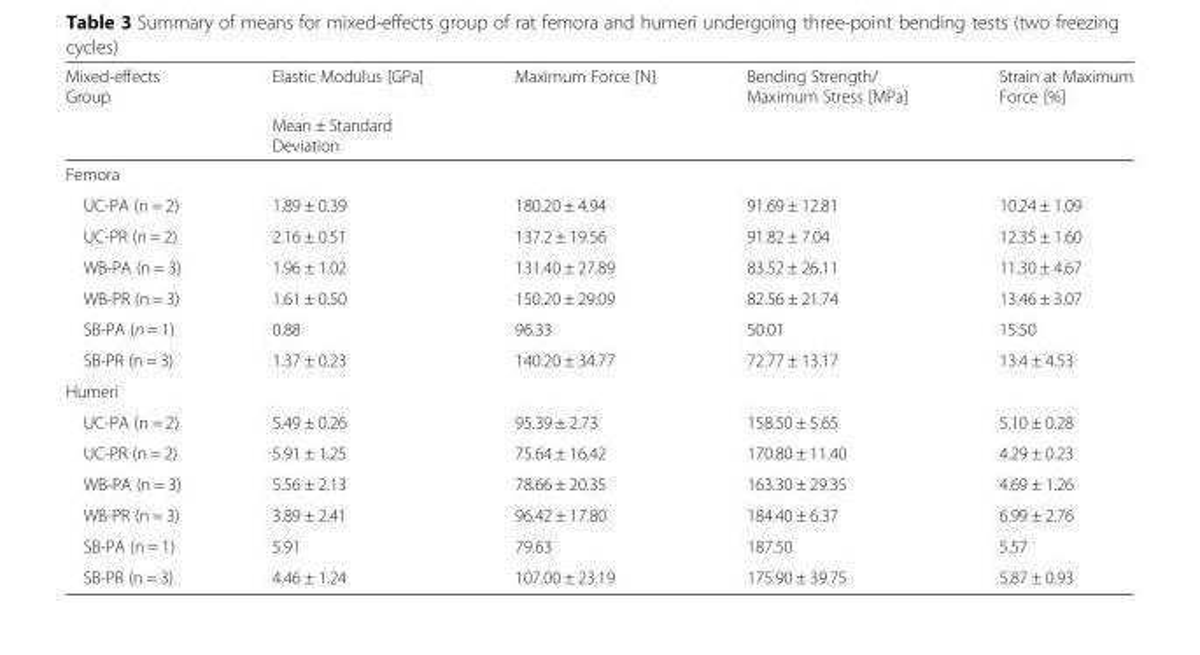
<table><thead><tr><td rowspan="2">Mixed-effects Group</td><td>Elastic Modulus [GPa]</td><td>Maximum Force [N]</td><td>Bending Strength/ Maximum Stress [MPa]</td><td>Strain at Maximum Force [%]</td></tr><tr><td colspan="4">Mean ± Standard Deviation</td></tr></thead><tbody><tr><td colspan="5">Femora</td></tr><tr><td>UC-PA (n = 2)</td><td>1.89 ± 0.39</td><td>180.20 ± 4.94</td><td>91.69 ± 12.81</td><td>10.24 ± 1.09</td></tr><tr><td>UC-PR (n = 2)</td><td>2.16 ± 0.51</td><td>137.2 ± 19.56</td><td>91.82 ± 7.04</td><td>12.35 ± 1.60</td></tr><tr><td>WB-PA (n = 3)</td><td>1.96 ± 1.02</td><td>131.40 ± 27.89</td><td>83.52 ± 26.11</td><td>11.30 ± 4.67</td></tr><tr><td>WB-PR (n = 3)</td><td>1.61 ± 0.50</td><td>150.20 ± 29.09</td><td>82.56 ± 21.74</td><td>13.46 ± 3.07</td></tr><tr><td>SB-PA (n = 1)</td><td>0.88</td><td>96.33</td><td>50.01</td><td>15.50</td></tr><tr><td>SB-PR (n = 3)</td><td>1.37 ± 0.23</td><td>140.20 ± 34.77</td><td>72.77 ± 13.17</td><td>13.4 ± 4.53</td></tr><tr><td colspan="5">Humeri</td></tr><tr><td>UC-PA (n = 2)</td><td>5.49 ± 0.26</td><td>95.39 ± 2.73</td><td>158.50 ± 5.65</td><td>5.10 ± 0.28</td></tr><tr><td>UC-PR (n = 2)</td><td>5.91 ± 1.25</td><td>75.64 ± 16.42</td><td>170.80 ± 11.40</td><td>4.29 ± 0.23</td></tr><tr><td>WB-PA (n = 3)</td><td>5.56 ± 2.13</td><td>78.66 ± 20.35</td><td>163.30 ± 29.35</td><td>4.69 ± 1.26</td></tr><tr><td>WB-PR (n = 3)</td><td>3.89 ± 2.41</td><td>96.42 ± 17.80</td><td>184.40 ± 6.37</td><td>6.99 ± 2.76</td></tr><tr><td>SB-PA (n = 1)</td><td>5.91</td><td>79.63</td><td>187.50</td><td>5.57</td></tr><tr><td>SB-PR (n = 3)</td><td>4.46 ± 1.24</td><td>107.00 ± 23.19</td><td>175.90 ± 39.75</td><td>5.87 ± 0.93</td></tr></tbody></table>